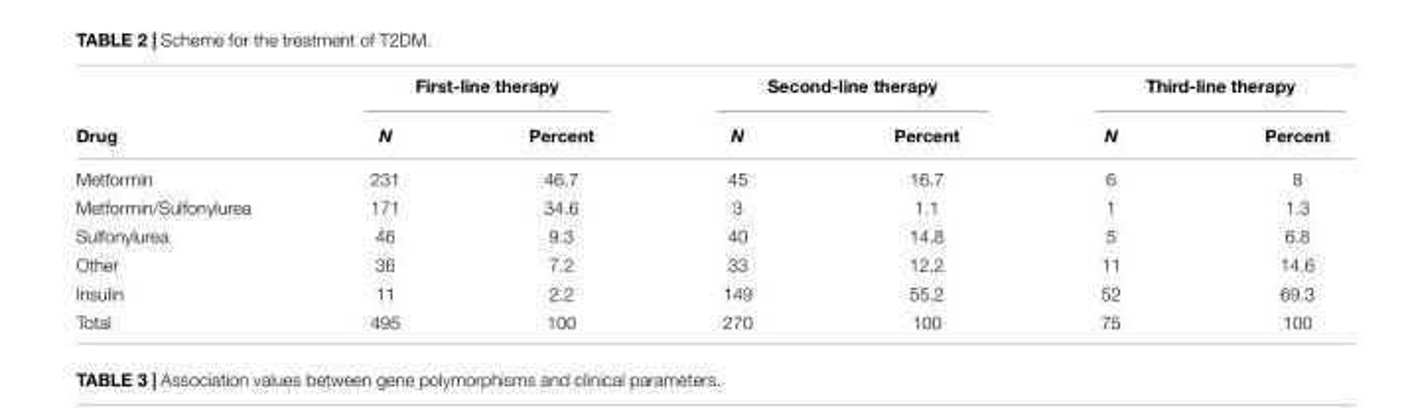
<table><thead><tr><td rowspan="2">Drug</td><td colspan="2">First-line therapy</td><td colspan="2">Second-line therapy</td><td colspan="2">Third-line therapy</td></tr><tr><td>N</td><td>Percent</td><td>N</td><td>Percent</td><td>N</td><td>Percent</td></tr></thead><tbody><tr><td>Metformin</td><td>231</td><td>46.7</td><td>45</td><td>16.7</td><td>6</td><td>8</td></tr><tr><td>Metformin/Sulfonylurea</td><td>171</td><td>34.6</td><td>3</td><td>1.1</td><td>1</td><td>1.3</td></tr><tr><td>Sulfonylurea</td><td>46</td><td>9.3</td><td>40</td><td>14.8</td><td>5</td><td>6.8</td></tr><tr><td>Other</td><td>36</td><td>7.2</td><td>33</td><td>12.2</td><td>11</td><td>14.6</td></tr><tr><td>Insulin</td><td>11</td><td>2.2</td><td>149</td><td>55.2</td><td>52</td><td>69.3</td></tr><tr><td>Total</td><td>495</td><td>100</td><td>270</td><td>100</td><td>75</td><td>100</td></tr></tbody></table>